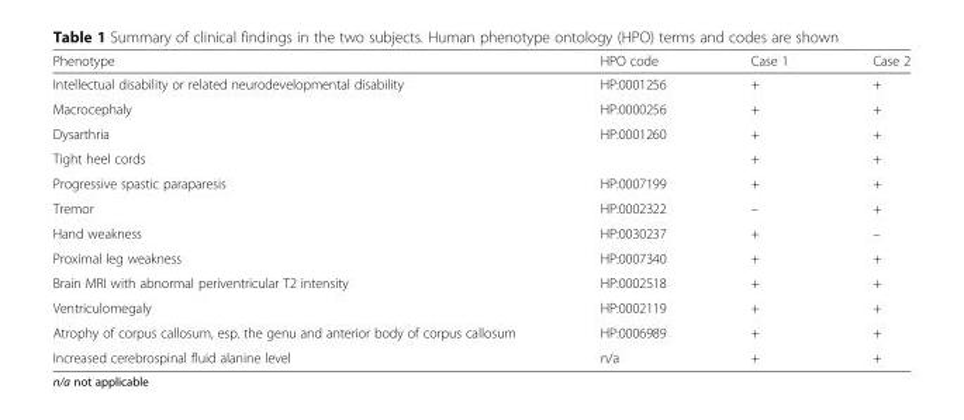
<table><thead><tr><td>Phenotype</td><td>HPO code</td><td>Case 1</td><td>Case 2</td></tr></thead><tbody><tr><td>Intellectual disability or related neurodevelopmental disability</td><td>HP:0001256</td><td>+</td><td>+</td></tr><tr><td>Macrocephaly</td><td>HP:0000256</td><td>+</td><td>+</td></tr><tr><td>Dysarthria</td><td>HP:0001260</td><td>+</td><td>+</td></tr><tr><td>Tight heel cords</td><td></td><td>+</td><td>+</td></tr><tr><td>Progressive spastic paraparesis</td><td>HP:0007199</td><td>+</td><td>+</td></tr><tr><td>Tremor</td><td>HP:0002322</td><td>–</td><td>+</td></tr><tr><td>Hand weakness</td><td>HP:0030237</td><td>+</td><td>–</td></tr><tr><td>Proximal leg weakness</td><td>HP:0007340</td><td>+</td><td>+</td></tr><tr><td>Brain MRI with abnormal periventricular T2 intensity</td><td>HP:0002518</td><td>+</td><td>+</td></tr><tr><td>Ventriculomegaly</td><td>HP:0002119</td><td>+</td><td>+</td></tr><tr><td>Atrophy of corpus callosum, esp. the genu and anterior body of corpus callosum</td><td>HP:0006989</td><td>+</td><td>+</td></tr><tr><td>Increased cerebrospinal fluid alanine level</td><td>n/a</td><td>+</td><td>+</td></tr></tbody></table>